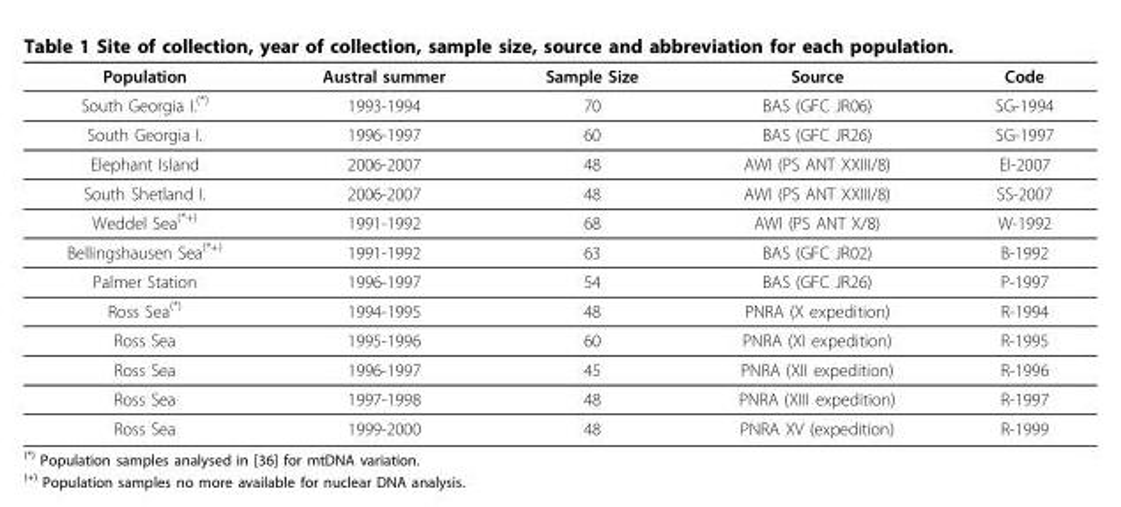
<table><thead><tr><td>Population</td><td>Austral summer</td><td>Sample Size</td><td>Source</td><td>Code</td></tr></thead><tbody><tr><td>South Georgia I.(*)</td><td>1993-1994</td><td>70</td><td>BAS (GFC JR06)</td><td>SG-1994</td></tr><tr><td>South Georgia I.</td><td>1996-1997</td><td>60</td><td>BAS (GFC JR26)</td><td>SG-1997</td></tr><tr><td>Elephant Island</td><td>2006-2007</td><td>48</td><td>AWI (PS ANT XXIII/8)</td><td>EI-2007</td></tr><tr><td>South Shetland I.</td><td>2006-2007</td><td>48</td><td>AWI (PS ANT XXIII/8)</td><td>SS-2007</td></tr><tr><td>Weddel Sea(*+)</td><td>1991-1992</td><td>68</td><td>AWI (PS ANT X/8)</td><td>W-1992</td></tr><tr><td>Bellingshausen Sea(*+)</td><td>1991-1992</td><td>63</td><td>BAS (GFC JR02)</td><td>B-1992</td></tr><tr><td>Palmer Station</td><td>1996-1997</td><td>54</td><td>BAS (GFC JR26)</td><td>P-1997</td></tr><tr><td>Ross Sea(*)</td><td>1994-1995</td><td>48</td><td>PNRA (X expedition)</td><td>R-1994</td></tr><tr><td>Ross Sea</td><td>1995-1996</td><td>60</td><td>PNRA (XI expedition)</td><td>R-1995</td></tr><tr><td>Ross Sea</td><td>1996-1997</td><td>45</td><td>PNRA (XII expedition)</td><td>R-1996</td></tr><tr><td>Ross Sea</td><td>1997-1998</td><td>48</td><td>PNRA (XIII expedition)</td><td>R-1997</td></tr><tr><td>Ross Sea</td><td>1999-2000</td><td>48</td><td>PNRA XV (expedition)</td><td>R-1999</td></tr></tbody></table>